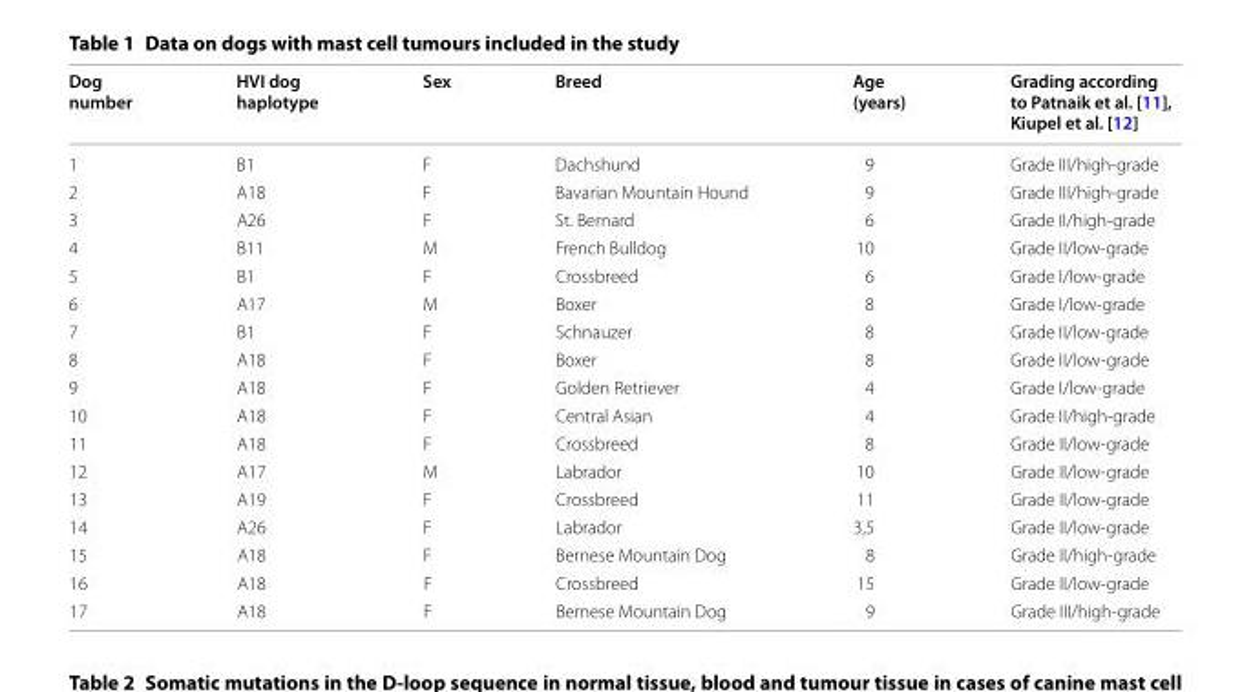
<table><thead><tr><td>Dog number</td><td>HVI dog haplotype</td><td>Sex</td><td>Breed</td><td>Age (years)</td><td>Grading according to Patnaik et al. [11], Kiupel et al. [12]</td></tr></thead><tbody><tr><td>1</td><td>B1</td><td>F</td><td>Dachshund</td><td>9</td><td>Grade III/high‑grade</td></tr><tr><td>2</td><td>A18</td><td>F</td><td>Bavarian Mountain Hound</td><td>9</td><td>Grade III/high‑grade</td></tr><tr><td>3</td><td>A26</td><td>F</td><td>St. Bernard</td><td>6</td><td>Grade II/high‑grade</td></tr><tr><td>4</td><td>B11</td><td>M</td><td>French Bulldog</td><td>10</td><td>Grade II/low‑grade</td></tr><tr><td>5</td><td>B1</td><td>F</td><td>Crossbreed</td><td>6</td><td>Grade I/low‑grade</td></tr><tr><td>6</td><td>A17</td><td>M</td><td>Boxer</td><td>8</td><td>Grade I/low‑grade</td></tr><tr><td>7</td><td>B1</td><td>F</td><td>Schnauzer</td><td>8</td><td>Grade II/low‑grade</td></tr><tr><td>8</td><td>A18</td><td>F</td><td>Boxer</td><td>8</td><td>Grade II/low‑grade</td></tr><tr><td>9</td><td>A18</td><td>F</td><td>Golden Retriever</td><td>4</td><td>Grade I/low‑grade</td></tr><tr><td>10</td><td>A18</td><td>F</td><td>Central Asian</td><td>4</td><td>Grade II/high‑grade</td></tr><tr><td>11</td><td>A18</td><td>F</td><td>Crossbreed</td><td>8</td><td>Grade II/low‑grade</td></tr><tr><td>12</td><td>A17</td><td>M</td><td>Labrador</td><td>10</td><td>Grade II/low‑grade</td></tr><tr><td>13</td><td>A19</td><td>F</td><td>Crossbreed</td><td>11</td><td>Grade II/low‑grade</td></tr><tr><td>14</td><td>A26</td><td>F</td><td>Labrador</td><td>3,5</td><td>Grade II/low‑grade</td></tr><tr><td>15</td><td>A18</td><td>F</td><td>Bernese Mountain Dog</td><td>8</td><td>Grade II/high‑grade</td></tr><tr><td>16</td><td>A18</td><td>F</td><td>Crossbreed</td><td>15</td><td>Grade II/low‑grade</td></tr><tr><td>17</td><td>A18</td><td>F</td><td>Bernese Mountain Dog</td><td>9</td><td>Grade III/high‑grade</td></tr></tbody></table>